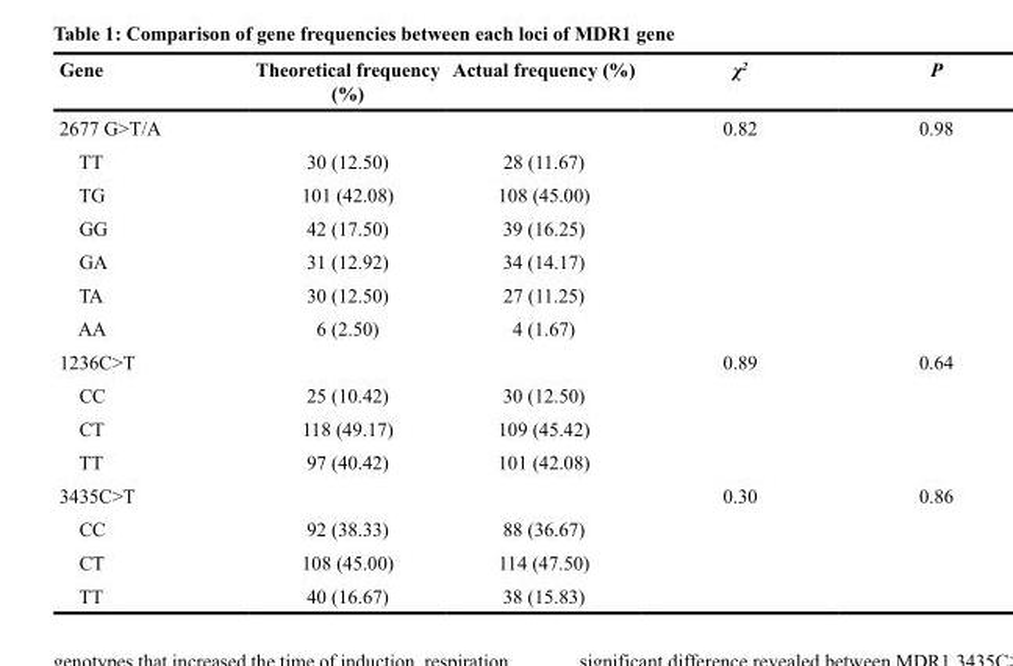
<table><thead><tr><td>Gene</td><td>Theoretical frequency (%)</td><td>Actual frequency (%)</td><td>χ<sup>2</sup></td><td>P</td></tr></thead><tbody><tr><td>2677 G&gt;T/A</td><td></td><td></td><td>0.82</td><td>0.98</td></tr><tr><td>TT</td><td>30 (12.50)</td><td>28 (11.67)</td><td></td><td></td></tr><tr><td>TG</td><td>101 (42.08)</td><td>108 (45.00)</td><td></td><td></td></tr><tr><td>GG</td><td>42 (17.50)</td><td>39 (16.25)</td><td></td><td></td></tr><tr><td>GA</td><td>31 (12.92)</td><td>34 (14.17)</td><td></td><td></td></tr><tr><td>TA</td><td>30 (12.50)</td><td>27 (11.25)</td><td></td><td></td></tr><tr><td>AA</td><td>6 (2.50)</td><td>4 (1.67)</td><td></td><td></td></tr><tr><td>1236C&gt;T</td><td></td><td></td><td>0.89</td><td>0.64</td></tr><tr><td>CC</td><td>25 (10.42)</td><td>30 (12.50)</td><td></td><td></td></tr><tr><td>CT</td><td>118 (49.17)</td><td>109 (45.42)</td><td></td><td></td></tr><tr><td>TT</td><td>97 (40.42)</td><td>101 (42.08)</td><td></td><td></td></tr><tr><td>3435C&gt;T</td><td></td><td></td><td>0.30</td><td>0.86</td></tr><tr><td>CC</td><td>92 (38.33)</td><td>88 (36.67)</td><td></td><td></td></tr><tr><td>CT</td><td>108 (45.00)</td><td>114 (47.50)</td><td></td><td></td></tr><tr><td>TT</td><td>40 (16.67)</td><td>38 (15.83)</td><td></td><td></td></tr></tbody></table>